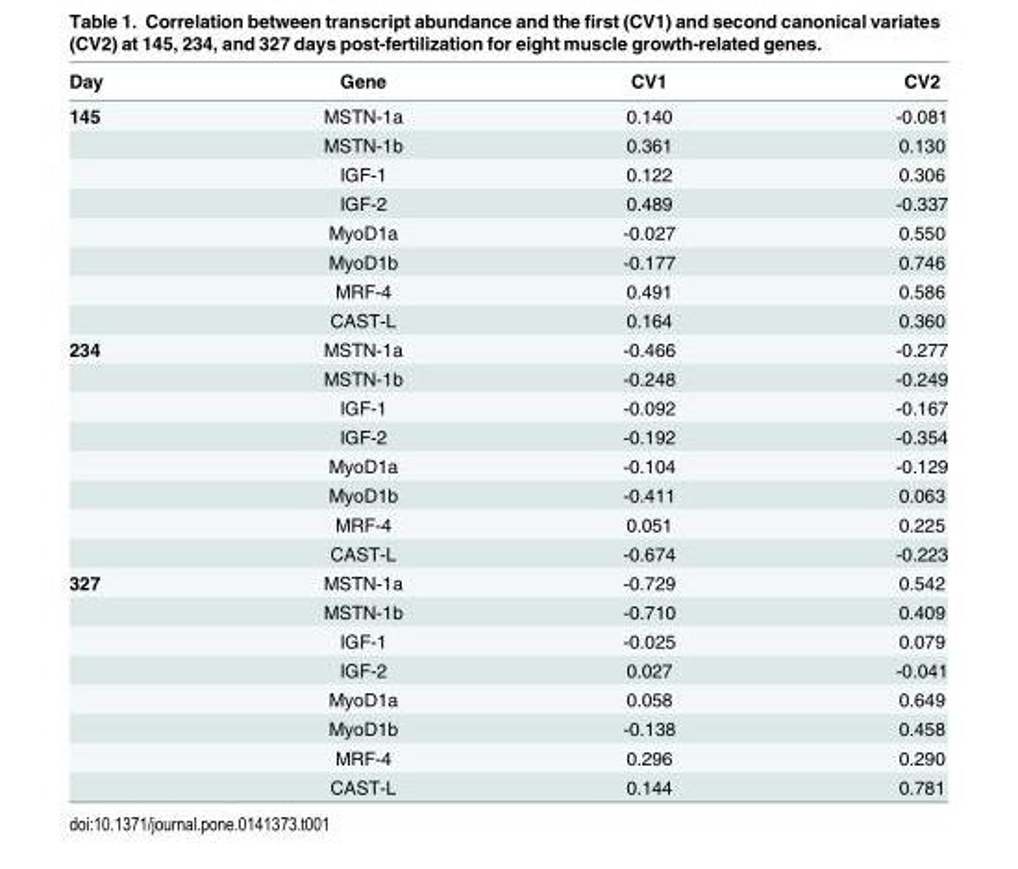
<table><thead><tr><td>Day</td><td>Gene</td><td>CV1</td><td>CV2</td></tr></thead><tbody><tr><td rowspan="8">145</td><td>MSTN-1a</td><td>0.140</td><td>-0.081</td></tr><tr><td>MSTN-1b</td><td>0.361</td><td>0.130</td></tr><tr><td>IGF-1</td><td>0.122</td><td>0.306</td></tr><tr><td>IGF-2</td><td>0.489</td><td>-0.337</td></tr><tr><td>MyoD1a</td><td>-0.027</td><td>0.550</td></tr><tr><td>MyoD1b</td><td>-0.177</td><td>0.746</td></tr><tr><td>MRF-4</td><td>0.491</td><td>0.586</td></tr><tr><td>CAST-L</td><td>0.164</td><td>0.360</td></tr><tr><td rowspan="8">234</td><td>MSTN-1a</td><td>-0.466</td><td>-0.277</td></tr><tr><td>MSTN-1b</td><td>-0.248</td><td>-0.249</td></tr><tr><td>IGF-1</td><td>-0.092</td><td>-0.167</td></tr><tr><td>IGF-2</td><td>-0.192</td><td>-0.354</td></tr><tr><td>MyoD1a</td><td>-0.104</td><td>-0.129</td></tr><tr><td>MyoD1b</td><td>-0.411</td><td>0.063</td></tr><tr><td>MRF-4</td><td>0.051</td><td>0.225</td></tr><tr><td>CAST-L</td><td>-0.674</td><td>-0.223</td></tr><tr><td rowspan="8">327</td><td>MSTN-1a</td><td>-0.729</td><td>0.542</td></tr><tr><td>MSTN-1b</td><td>-0.710</td><td>0.409</td></tr><tr><td>IGF-1</td><td>-0.025</td><td>0.079</td></tr><tr><td>IGF-2</td><td>0.027</td><td>-0.041</td></tr><tr><td>MyoD1a</td><td>0.058</td><td>0.649</td></tr><tr><td>MyoD1b</td><td>-0.138</td><td>0.458</td></tr><tr><td>MRF-4</td><td>0.296</td><td>0.290</td></tr><tr><td>CAST-L</td><td>0.144</td><td>0.781</td></tr></tbody></table>